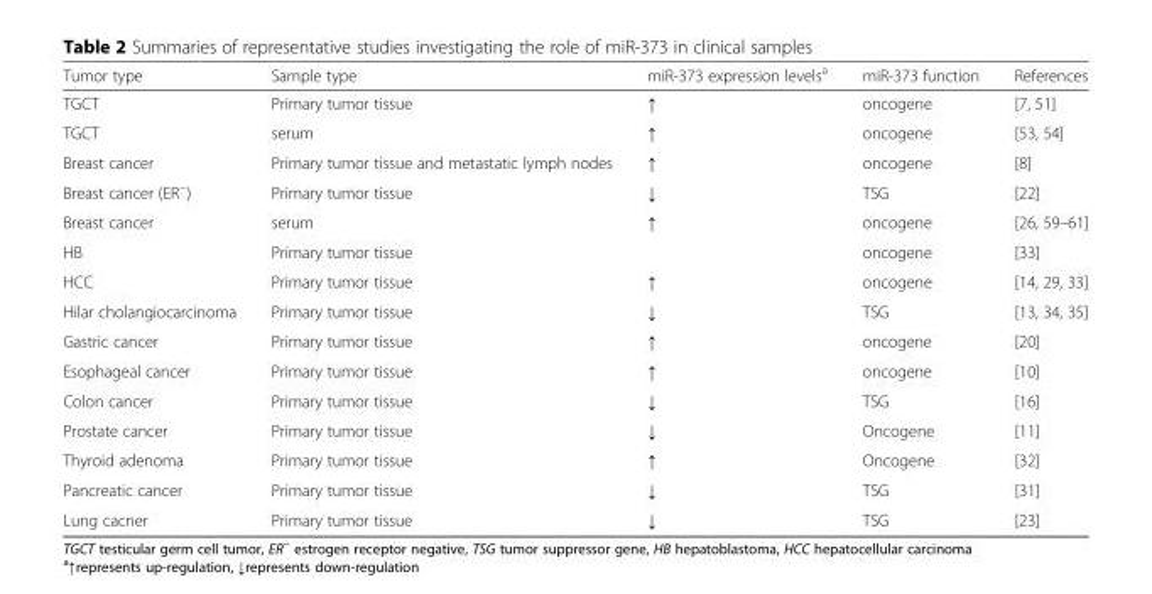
<table><thead><tr><td>Tumor type</td><td>Sample type</td><td>miR-373 expression levels<sup>a</sup></td><td>miR-373 function</td><td>References</td></tr></thead><tbody><tr><td>TGCT</td><td>Primary tumor tissue</td><td>↑</td><td>oncogene</td><td>[7, 51]</td></tr><tr><td>TGCT</td><td>serum</td><td>↑</td><td>oncogene</td><td>[53, 54]</td></tr><tr><td>Breast cancer</td><td>Primary tumor tissue and metastatic lymph nodes</td><td>↑</td><td>oncogene</td><td>[8]</td></tr><tr><td>Breast cancer (ER<sup>−</sup>)</td><td>Primary tumor tissue</td><td>↓</td><td>TSG</td><td>[22]</td></tr><tr><td>Breast cancer</td><td>serum</td><td>↑</td><td>oncogene</td><td>[26, 59–61]</td></tr><tr><td>HB</td><td>Primary tumor tissue</td><td></td><td>oncogene</td><td>[33]</td></tr><tr><td>HCC</td><td>Primary tumor tissue</td><td>↑</td><td>oncogene</td><td>[14, 29, 33]</td></tr><tr><td>Hilar cholangiocarcinoma</td><td>Primary tumor tissue</td><td>↓</td><td>TSG</td><td>[13, 34, 35]</td></tr><tr><td>Gastric cancer</td><td>Primary tumor tissue</td><td>↑</td><td>oncogene</td><td>[20]</td></tr><tr><td>Esophageal cancer</td><td>Primary tumor tissue</td><td>↑</td><td>oncogene</td><td>[10]</td></tr><tr><td>Colon cancer</td><td>Primary tumor tissue</td><td>↓</td><td>TSG</td><td>[16]</td></tr><tr><td>Prostate cancer</td><td>Primary tumor tissue</td><td>↓</td><td>Oncogene</td><td>[11]</td></tr><tr><td>Thyroid adenoma</td><td>Primary tumor tissue</td><td>↑</td><td>Oncogene</td><td>[32]</td></tr><tr><td>Pancreatic cancer</td><td>Primary tumor tissue</td><td>↓</td><td>TSG</td><td>[31]</td></tr><tr><td>Lung cacner</td><td>Primary tumor tissue</td><td>↓</td><td>TSG</td><td>[23]</td></tr></tbody></table>